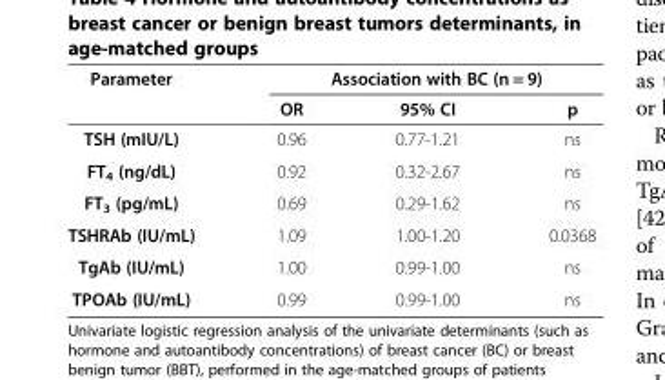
<table><thead><tr><td rowspan="2">Parameter</td><td colspan="3">Association with BC (n = 9)</td></tr><tr><td>OR</td><td>95% CI</td><td>p</td></tr></thead><tbody><tr><td>TSH (mIU/L)</td><td>0.96</td><td>0.77-1.21</td><td>ns</td></tr><tr><td>FT<sub>4</sub> (ng/dL)</td><td>0.92</td><td>0.32-2.67</td><td>ns</td></tr><tr><td>FT<sub>3</sub> (pg/mL)</td><td>0.69</td><td>0.29-1.62</td><td>ns</td></tr><tr><td>TSHRAb (IU/mL)</td><td>1.09</td><td>1.00-1.20</td><td>0.0368</td></tr><tr><td>TgAb (IU/mL)</td><td>1.00</td><td>0.99-1.00</td><td>ns</td></tr><tr><td>TPOAb (IU/mL)</td><td>0.99</td><td>0.99-1.00</td><td>ns</td></tr></tbody></table>